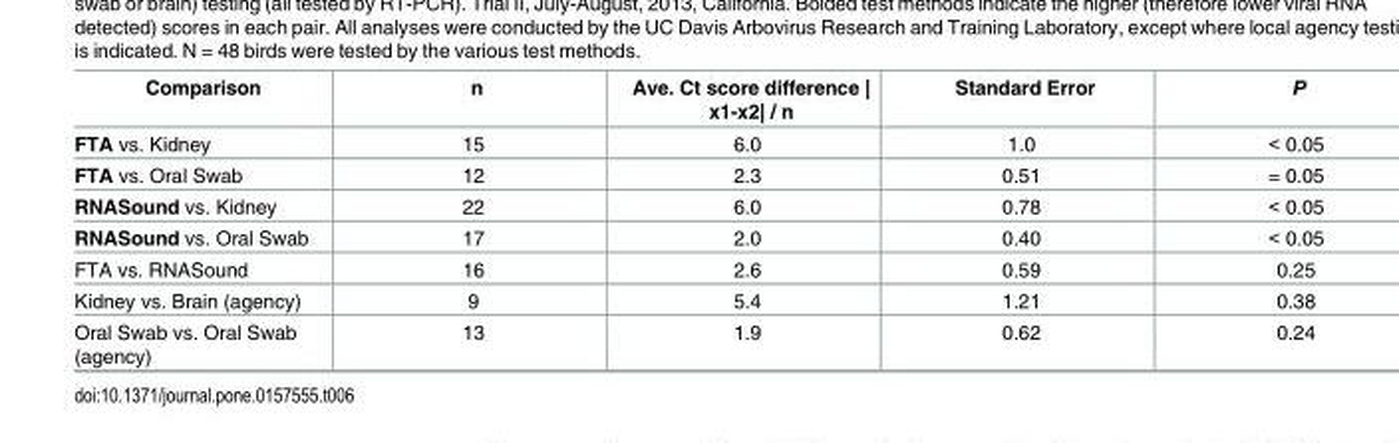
<table><thead><tr><td>Comparison</td><td>n</td><td>Ave. Ct score difference | x1-x2| / n</td><td>Standard Error</td><td>P</td></tr></thead><tbody><tr><td>FTA vs. Kidney</td><td>15</td><td>6.0</td><td>1.0</td><td>&lt; 0.05</td></tr><tr><td>FTA vs. Oral Swab</td><td>12</td><td>2.3</td><td>0.51</td><td>= 0.05</td></tr><tr><td>RNASound vs. Kidney</td><td>22</td><td>6.0</td><td>0.78</td><td>&lt; 0.05</td></tr><tr><td>RNASound vs. Oral Swab</td><td>17</td><td>2.0</td><td>0.40</td><td>&lt; 0.05</td></tr><tr><td>FTA vs. RNASound</td><td>16</td><td>2.6</td><td>0.59</td><td>0.25</td></tr><tr><td>Kidney vs. Brain (agency)</td><td>9</td><td>5.4</td><td>1.21</td><td>0.38</td></tr><tr><td>Oral Swab vs. Oral Swab (agency)</td><td>13</td><td>1.9</td><td>0.62</td><td>0.24</td></tr></tbody></table>